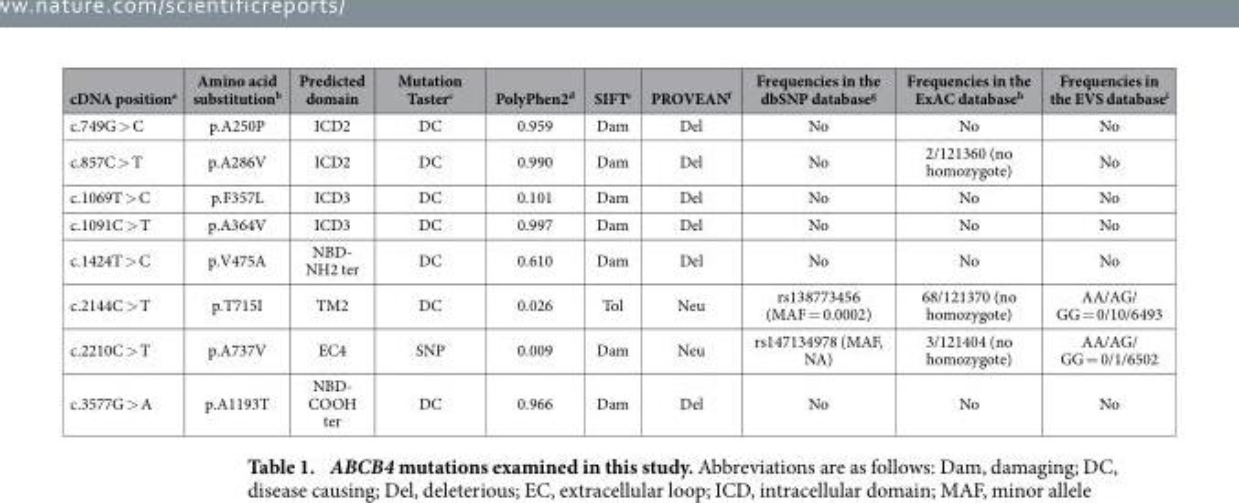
<table><thead><tr><td>cDNA position<sup>a</sup></td><td>Amino acid substitution<sup>b</sup></td><td>Predicted domain</td><td>Mutation Taster<sup>c</sup></td><td>PolyPhen2<sup>d</sup></td><td>SIFT<sup>e</sup></td><td>PROVEAN<sup>f</sup></td><td>Frequencies in the dbSNP database<sup>g</sup></td><td>Frequencies in the ExAC database<sup>h</sup></td><td>Frequencies in the EVS database<sup>i</sup></td></tr></thead><tbody><tr><td>c.749G &gt; C</td><td>p.A250P</td><td>ICD2</td><td>DC</td><td>0.959</td><td>Dam</td><td>Del</td><td>No</td><td>No</td><td>No</td></tr><tr><td>c.857C &gt; T</td><td>p.A286V</td><td>ICD2</td><td>DC</td><td>0.990</td><td>Dam</td><td>Del</td><td>No</td><td>2/121360 (no homozygote)</td><td>No</td></tr><tr><td>c.1069T &gt; C</td><td>p.F357L</td><td>ICD3</td><td>DC</td><td>0.101</td><td>Dam</td><td>Del</td><td>No</td><td>No</td><td>No</td></tr><tr><td>c.1091C &gt; T</td><td>p.A364V</td><td>ICD3</td><td>DC</td><td>0.997</td><td>Dam</td><td>Del</td><td>No</td><td>No</td><td>No</td></tr><tr><td>c.1424T &gt; C</td><td>p.V475A</td><td>NBD- NH2 ter</td><td>DC</td><td>0.610</td><td>Dam</td><td>Del</td><td>No</td><td>No</td><td>No</td></tr><tr><td>c.2144C &gt; T</td><td>p.T715I</td><td>TM2</td><td>DC</td><td>0.026</td><td>Tol</td><td>Neu</td><td>rs138773456 (MAF = 0.0002)</td><td>68/121370 (no homozygote)</td><td>AA/AG/ GG = 0/10/6493</td></tr><tr><td>c.2210C &gt; T</td><td>p.A737V</td><td>EC4</td><td>SNP</td><td>0.009</td><td>Dam</td><td>Neu</td><td>rs147134978 (MAF, NA)</td><td>3/121404 (no homozygote)</td><td>AA/AG/ GG = 0/1/6502</td></tr><tr><td>c.3577G &gt; A</td><td>p.A1193T</td><td>NBD- COOH ter</td><td>DC</td><td>0.966</td><td>Dam</td><td>Del</td><td>No</td><td>No</td><td>No</td></tr></tbody></table>